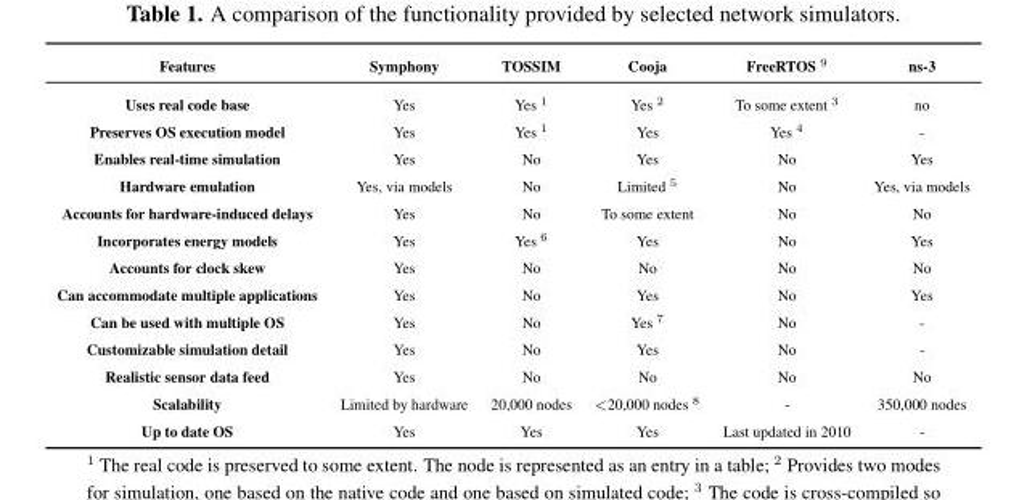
<table><thead><tr><td>Features</td><td>Symphony</td><td>TOSSIM</td><td>Cooja</td><td>FreeRTOS <sup>9</sup></td><td>ns-3</td></tr></thead><tbody><tr><td>Uses real code base</td><td>Yes</td><td>Yes <sup>1</sup></td><td>Yes <sup>2</sup></td><td>To some extent <sup>3</sup></td><td>no</td></tr><tr><td>Preserves OS execution model</td><td>Yes</td><td>Yes <sup>1</sup></td><td>Yes</td><td>Yes <sup>4</sup></td><td>-</td></tr><tr><td>Enables real-time simulation</td><td>Yes</td><td>No</td><td>Yes</td><td>No</td><td>Yes</td></tr><tr><td>Hardware emulation</td><td>Yes, via models</td><td>No</td><td>Limited <sup>5</sup></td><td>No</td><td>Yes, via models</td></tr><tr><td>Accounts for hardware-induced delays</td><td>Yes</td><td>No</td><td>To some extent</td><td>No</td><td>No</td></tr><tr><td>Incorporates energy models</td><td>Yes</td><td>Yes <sup>6</sup></td><td>Yes</td><td>No</td><td>Yes</td></tr><tr><td>Accounts for clock skew</td><td>Yes</td><td>No</td><td>No</td><td>No</td><td>No</td></tr><tr><td>Can accommodate multiple applications</td><td>Yes</td><td>No</td><td>Yes</td><td>No</td><td>Yes</td></tr><tr><td>Can be used with multiple OS</td><td>Yes</td><td>No</td><td>Yes <sup>7</sup></td><td>No</td><td>-</td></tr><tr><td>Customizable simulation detail</td><td>Yes</td><td>No</td><td>Yes</td><td>No</td><td>-</td></tr><tr><td>Realistic sensor data feed</td><td>Yes</td><td>No</td><td>No</td><td>No</td><td>No</td></tr><tr><td>Scalability</td><td>Limited by hardware</td><td>20,000 nodes</td><td>&lt;20,000 nodes <sup>8</sup></td><td>-</td><td>350,000 nodes</td></tr><tr><td>Up to date OS</td><td>Yes</td><td>Yes</td><td>Yes</td><td>Last updated in 2010</td><td>-</td></tr></tbody></table>